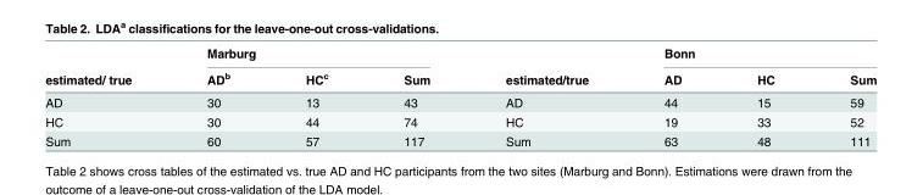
<table><thead><tr><td rowspan="2">estimated/ true</td><td colspan="3">Marburg</td><td rowspan="2">estimated/true</td><td colspan="3">Bonn</td></tr><tr><td>AD<sup>b</sup></td><td>HC<sup>c</sup></td><td>Sum</td><td>AD</td><td>HC</td><td>Sum</td></tr></thead><tbody><tr><td>AD</td><td>30</td><td>13</td><td>43</td><td>AD</td><td>44</td><td>15</td><td>59</td></tr><tr><td>HC</td><td>30</td><td>44</td><td>74</td><td>HC</td><td>19</td><td>33</td><td>52</td></tr><tr><td>Sum</td><td>60</td><td>57</td><td>117</td><td>Sum</td><td>63</td><td>48</td><td>111</td></tr></tbody></table>